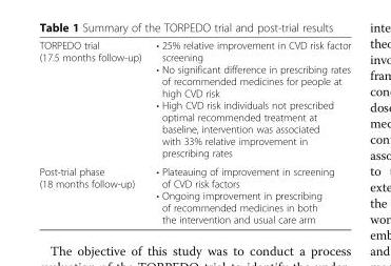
<table><tbody><tr><td>TORPEDO trial (17.5 months follow-up)</td><td>• 25% relative improvement in CVD risk factor screening • No significant difference in prescribing rates of recommended medicines for people at high CVD risk • High CVD risk individuals not prescribed optimal recommended treatment at baseline, intervention was associated with 33% relative improvement in prescribing rates</td></tr><tr><td>Post-trial phase (18 months follow-up)</td><td>• Plateauing of improvement in screening of CVD risk factors • Ongoing improvement in prescribing of recommended medicines in both the intervention and usual care arm</td></tr></tbody></table>